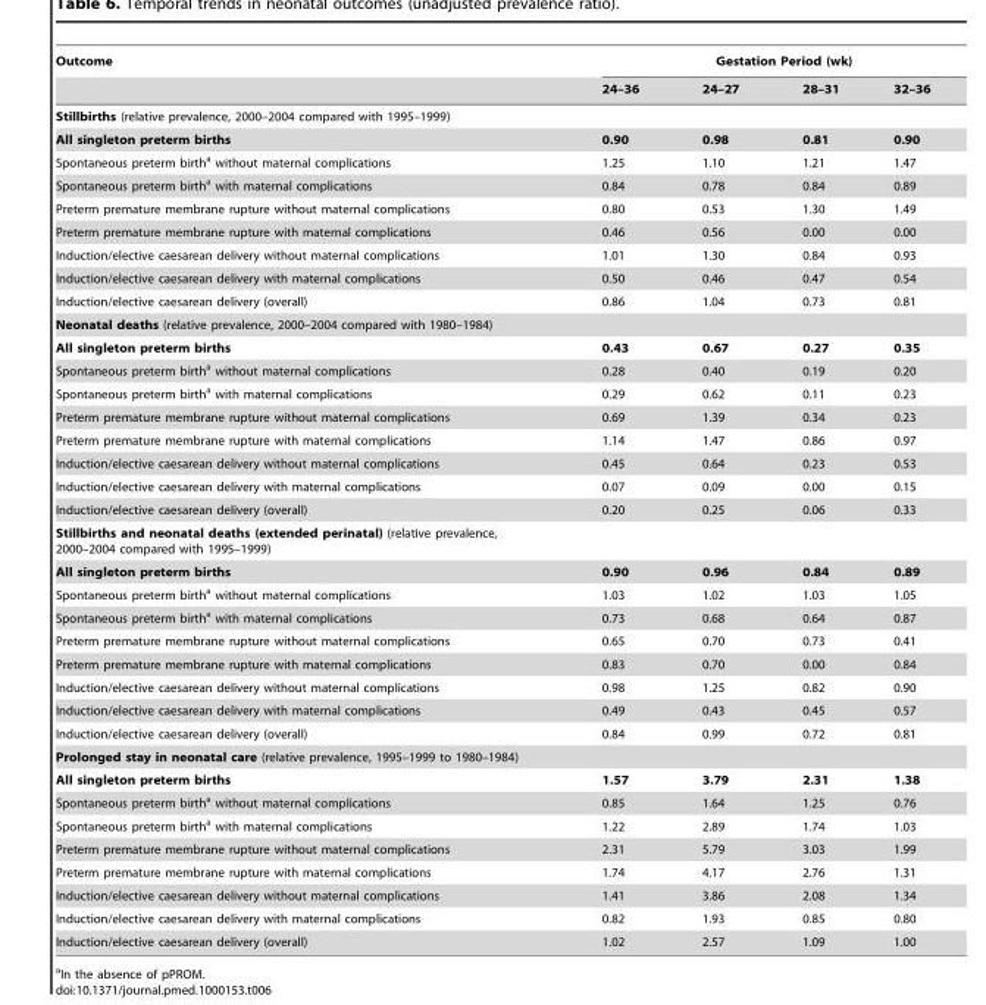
<table><thead><tr><td rowspan="2">Outcome</td><td colspan="4">Gestation Period (wk)</td></tr><tr><td>24–36</td><td>24–27</td><td>28–31</td><td>32–36</td></tr></thead><tbody><tr><td colspan="5">Stillbirths (relative prevalence, 2000–2004 compared with 1995–1999)</td></tr><tr><td>All singleton preterm births</td><td>0.90</td><td>0.98</td><td>0.81</td><td>0.90</td></tr><tr><td>Spontaneous preterm birth<sup>a</sup> without maternal complications</td><td>1.25</td><td>1.10</td><td>1.21</td><td>1.47</td></tr><tr><td>Spontaneous preterm birth<sup>a</sup> with maternal complications</td><td>0.84</td><td>0.78</td><td>0.84</td><td>0.89</td></tr><tr><td>Preterm premature membrane rupture without maternal complications</td><td>0.80</td><td>0.53</td><td>1.30</td><td>1.49</td></tr><tr><td>Preterm premature membrane rupture with maternal complications</td><td>0.46</td><td>0.56</td><td>0.00</td><td>0.00</td></tr><tr><td>Induction/elective caesarean delivery without maternal complications</td><td>1.01</td><td>1.30</td><td>0.84</td><td>0.93</td></tr><tr><td>Induction/elective caesarean delivery with maternal complications</td><td>0.50</td><td>0.46</td><td>0.47</td><td>0.54</td></tr><tr><td>Induction/elective caesarean delivery (overall)</td><td>0.86</td><td>1.04</td><td>0.73</td><td>0.81</td></tr><tr><td colspan="5">Neonatal deaths (relative prevalence, 2000–2004 compared with 1980–1984)</td></tr><tr><td>All singleton preterm births</td><td>0.43</td><td>0.67</td><td>0.27</td><td>0.35</td></tr><tr><td>Spontaneous preterm birth<sup>a</sup> without maternal complications</td><td>0.28</td><td>0.40</td><td>0.19</td><td>0.20</td></tr><tr><td>Spontaneous preterm birth<sup>a</sup> with maternal complications</td><td>0.29</td><td>0.62</td><td>0.11</td><td>0.23</td></tr><tr><td>Preterm premature membrane rupture without maternal complications</td><td>0.69</td><td>1.39</td><td>0.34</td><td>0.23</td></tr><tr><td>Preterm premature membrane rupture with maternal complications</td><td>1.14</td><td>1.47</td><td>0.86</td><td>0.97</td></tr><tr><td>Induction/elective caesarean delivery without maternal complications</td><td>0.45</td><td>0.64</td><td>0.23</td><td>0.53</td></tr><tr><td>Induction/elective caesarean delivery with maternal complications</td><td>0.07</td><td>0.09</td><td>0.00</td><td>0.15</td></tr><tr><td>Induction/elective caesarean delivery (overall)</td><td>0.20</td><td>0.25</td><td>0.06</td><td>0.33</td></tr><tr><td colspan="5">Stillbirths and neonatal deaths (extended perinatal) (relative prevalence, 2000–2004 compared with 1995–1999)</td></tr><tr><td>All singleton preterm births</td><td>0.90</td><td>0.96</td><td>0.84</td><td>0.89</td></tr><tr><td>Spontaneous preterm birth<sup>a</sup> without maternal complications</td><td>1.03</td><td>1.02</td><td>1.03</td><td>1.05</td></tr><tr><td>Spontaneous preterm birth<sup>a</sup> with maternal complications</td><td>0.73</td><td>0.68</td><td>0.64</td><td>0.87</td></tr><tr><td>Preterm premature membrane rupture without maternal complications</td><td>0.65</td><td>0.70</td><td>0.73</td><td>0.41</td></tr><tr><td>Preterm premature membrane rupture with maternal complications</td><td>0.83</td><td>0.70</td><td>0.00</td><td>0.84</td></tr><tr><td>Induction/elective caesarean delivery without maternal complications</td><td>0.98</td><td>1.25</td><td>0.82</td><td>0.90</td></tr><tr><td>Induction/elective caesarean delivery with maternal complications</td><td>0.49</td><td>0.43</td><td>0.45</td><td>0.57</td></tr><tr><td>Induction/elective caesarean delivery (overall)</td><td>0.84</td><td>0.99</td><td>0.72</td><td>0.81</td></tr><tr><td colspan="5">Prolonged stay in neonatal care (relative prevalence, 1995–1999 to 1980–1984)</td></tr><tr><td>All singleton preterm births</td><td>1.57</td><td>3.79</td><td>2.31</td><td>1.38</td></tr><tr><td>Spontaneous preterm birth<sup>a</sup> without maternal complications</td><td>0.85</td><td>1.64</td><td>1.25</td><td>0.76</td></tr><tr><td>Spontaneous preterm birth<sup>a</sup> with maternal complications</td><td>1.22</td><td>2.89</td><td>1.74</td><td>1.03</td></tr><tr><td>Preterm premature membrane rupture without maternal complications</td><td>2.31</td><td>5.79</td><td>3.03</td><td>1.99</td></tr><tr><td>Preterm premature membrane rupture with maternal complications</td><td>1.74</td><td>4.17</td><td>2.76</td><td>1.31</td></tr><tr><td>Induction/elective caesarean delivery without maternal complications</td><td>1.41</td><td>3.86</td><td>2.08</td><td>1.34</td></tr><tr><td>Induction/elective caesarean delivery with maternal complications</td><td>0.82</td><td>1.93</td><td>0.85</td><td>0.80</td></tr><tr><td>Induction/elective caesarean delivery (overall)</td><td>1.02</td><td>2.57</td><td>1.09</td><td>1.00</td></tr></tbody></table>